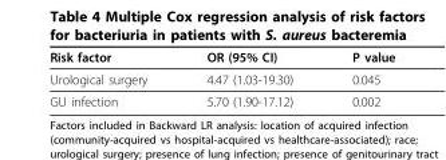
<table><thead><tr><td>Risk factor</td><td>OR (95% CI)</td><td>P value</td></tr></thead><tbody><tr><td>Urological surgery</td><td>4.47 (1.03-19.30)</td><td>0.045</td></tr><tr><td>GU infection</td><td>5.70 (1.90-17.12)</td><td>0.002</td></tr></tbody></table>